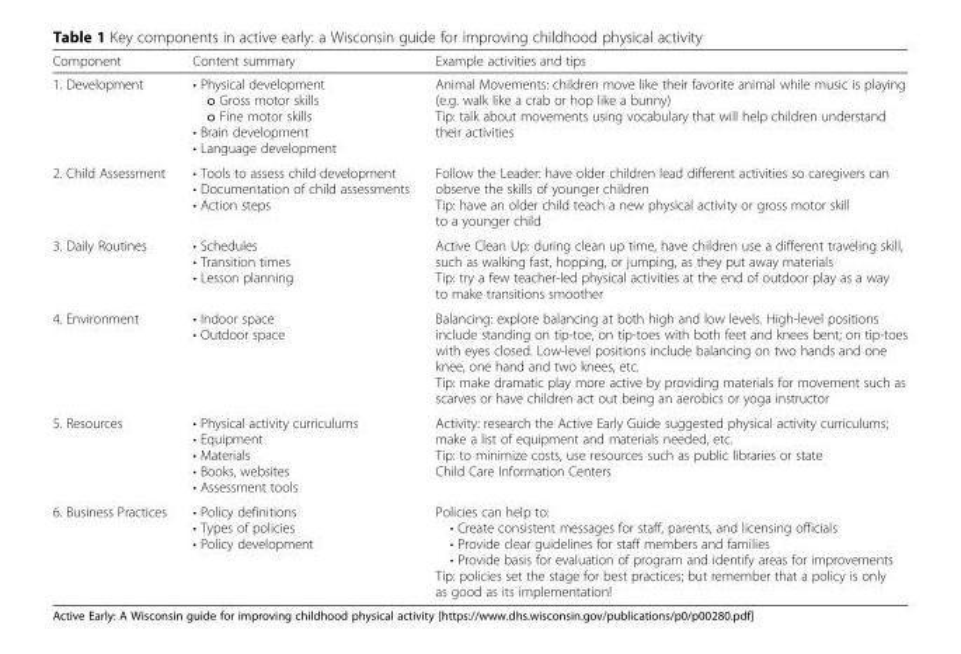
<table><thead><tr><td>Component</td><td>Content summary</td><td>Example activities and tips</td></tr></thead><tbody><tr><td>1. Development</td><td>• Physical development o Gross motor skills o Fine motor skills • Brain development • Language development</td><td>Animal Movements: children move like their favorite animal while music is playing (e.g. walk like a crab or hop like a bunny) Tip: talk about movements using vocabulary that will help children understand their activities</td></tr><tr><td>2. Child Assessment</td><td>• Tools to assess child development • Documentation of child assessments • Action steps</td><td>Follow the Leader: have older children lead different activities so caregivers can observe the skills of younger children Tip: have an older child teach a new physical activity or gross motor skill to a younger child</td></tr><tr><td>3. Daily Routines</td><td>• Schedules • Transition times • Lesson planning</td><td>Active Clean Up: during clean up time, have children use a different traveling skill, such as walking fast, hopping, or jumping, as they put away materials Tip: try a few teacher-led physical activities at the end of outdoor play as a way to make transitions smoother</td></tr><tr><td>4. Environment</td><td>• Indoor space • Outdoor space</td><td>Balancing: explore balancing at both high and low levels. High-level positions include standing on tip-toe, on tip-toes with both feet and knees bent; on tip-toes with eyes closed. Low-level positions include balancing on two hands and one knee, one hand and two knees, etc. Tip: make dramatic play more active by providing materials for movement such as scarves or have children act out being an aerobics or yoga instructor</td></tr><tr><td>5. Resources</td><td>• Physical activity curriculums • Equipment • Materials • Books, websites • Assessment tools</td><td>Activity: research the Active Early Guide suggested physical activity curriculums; make a list of equipment and materials needed, etc. Tip: to minimize costs, use resources such as public libraries or state Child Care Information Centers</td></tr><tr><td>6. Business Practices</td><td>• Policy definitions • Types of policies • Policy development</td><td>Policies can help to: • Create consistent messages for staff, parents, and licensing officials • Provide clear guidelines for staff members and families • Provide basis for evaluation of program and identify areas for improvements Tip: policies set the stage for best practices; but remember that a policy is only as good as its implementation!</td></tr></tbody></table>